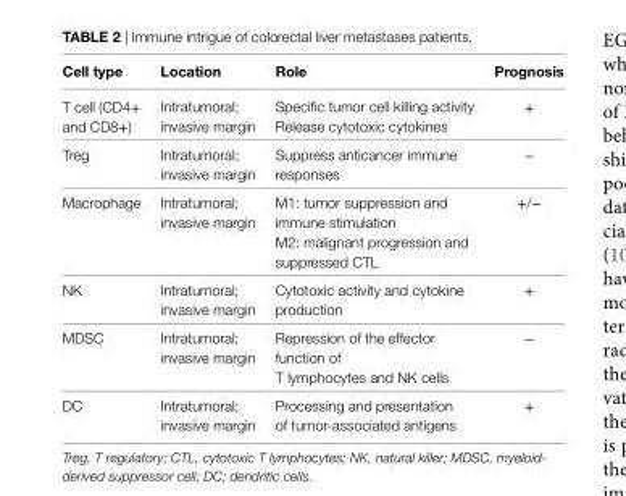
<table><thead><tr><td>Cell type</td><td>Location</td><td>Role</td><td>Prognosis</td></tr></thead><tbody><tr><td>T cell (CD4+ and CD8+)</td><td>Intratumoral; invasive margin</td><td>Specific tumor cell killing activity Release cytotoxic cytokines</td><td>+</td></tr><tr><td>Treg</td><td>Intratumoral; invasive margin</td><td>Suppress anticancer immune responses</td><td>−</td></tr><tr><td>Macrophage</td><td>Intratumoral; invasive margin</td><td>M1: tumor suppression and immune stimulation M2: malignant progression and suppressed CTL</td><td>+/−</td></tr><tr><td>NK</td><td>Intratumoral; invasive margin</td><td>Cytotoxic activity and cytokine production</td><td>+</td></tr><tr><td>MDSC</td><td>Intratumoral; invasive margin</td><td>Repression of the effector function of T lymphocytes and NK cells</td><td>−</td></tr><tr><td>DC</td><td>Intratumoral; invasive margin</td><td>Processing and presentation of tumor-associated antigens</td><td>+</td></tr></tbody></table>